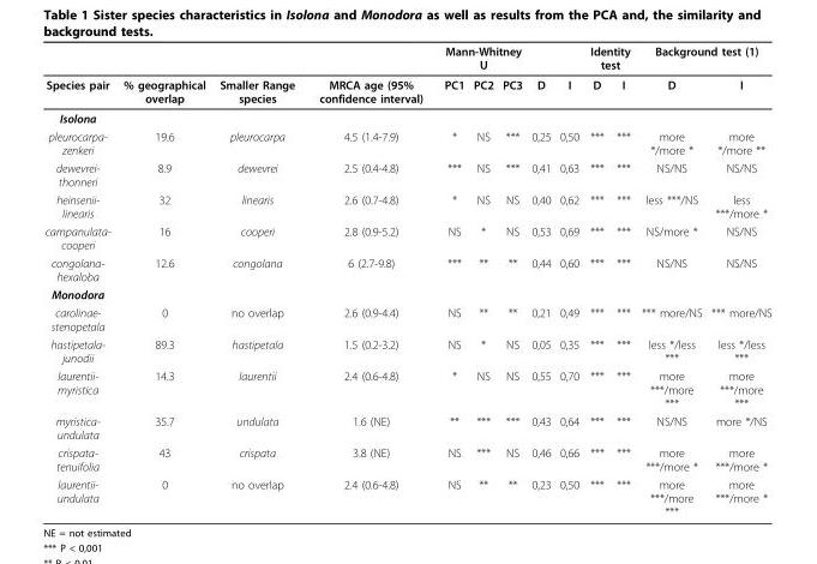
<table><thead><tr><td rowspan="2">Species pair</td><td rowspan="2">% geographical overlap</td><td rowspan="2">Smaller Range species</td><td rowspan="2">MRCA age (95% confidence interval)</td><td colspan="3">Mann-Whitney U</td><td rowspan="2">D</td><td rowspan="2">I</td><td colspan="2">Identity test</td><td colspan="2">Background test (1)</td></tr><tr><td>PC1</td><td>PC2</td><td>PC3</td><td>D</td><td>I</td><td>D</td><td>I</td></tr></thead><tbody><tr><td colspan="13">Isolona</td></tr><tr><td>pleurocarpa- zenkeri</td><td>19.6</td><td>pleurocarpa</td><td>4.5 (1.4-7.9)</td><td>*</td><td>NS</td><td>***</td><td>0,25</td><td>0,50</td><td>***</td><td>***</td><td>more */more *</td><td>more */more **</td></tr><tr><td>dewevrei- thonneri</td><td>8.9</td><td>dewevrei</td><td>2.5 (0.4-4.8)</td><td>***</td><td>NS</td><td>***</td><td>0,41</td><td>0,63</td><td>***</td><td>***</td><td>NS/NS</td><td>NS/NS</td></tr><tr><td>heinsenii- linearis</td><td>32</td><td>linearis</td><td>2.6 (0.7-4.8)</td><td>*</td><td>NS</td><td>NS</td><td>0,40</td><td>0,62</td><td>***</td><td>***</td><td>less ***/NS</td><td>less ***/more *</td></tr><tr><td>campanulata- cooperi</td><td>16</td><td>cooperi</td><td>2.8 (0.9-5.2)</td><td>NS</td><td>*</td><td>NS</td><td>0,53</td><td>0,69</td><td>***</td><td>***</td><td>NS/more *</td><td>NS/NS</td></tr><tr><td>congolana- hexaloba</td><td>12.6</td><td>congolana</td><td>6 (2.7-9.8)</td><td>***</td><td>**</td><td>**</td><td>0,44</td><td>0,60</td><td>***</td><td>***</td><td>NS/NS</td><td>NS/NS</td></tr><tr><td colspan="13">Monodora</td></tr><tr><td>carolinae- stenopetala</td><td>0</td><td>no overlap</td><td>2.6 (0.9-4.4)</td><td>NS</td><td>**</td><td>**</td><td>0,21</td><td>0,49</td><td>***</td><td>***</td><td>*** more/NS</td><td>*** more/NS</td></tr><tr><td>hastipetala- junodii</td><td>89.3</td><td>hastipetala</td><td>1.5 (0.2-3.2)</td><td>NS</td><td>*</td><td>NS</td><td>0,05</td><td>0,35</td><td>***</td><td>***</td><td>less */less ***</td><td>less */less ***</td></tr><tr><td>laurentii- myristica</td><td>14.3</td><td>laurentii</td><td>2.4 (0.6-4.8)</td><td>*</td><td>NS</td><td>NS</td><td>0,55</td><td>0,70</td><td>***</td><td>***</td><td>more ***/more ***</td><td>more ***/more ***</td></tr><tr><td>myristica- undulata</td><td>35.7</td><td>undulata</td><td>1.6 (NE)</td><td>**</td><td>***</td><td>***</td><td>0,43</td><td>0,64</td><td>***</td><td>***</td><td>NS/NS</td><td>more */NS</td></tr><tr><td>crispata- tenuifolia</td><td>43</td><td>crispata</td><td>3.8 (NE)</td><td>NS</td><td>***</td><td>NS</td><td>0,46</td><td>0,66</td><td>***</td><td>***</td><td>more ***/more *</td><td>more ***/more *</td></tr><tr><td>laurentii- undulata</td><td>0</td><td>no overlap</td><td>2.4 (0.6-4.8)</td><td>NS</td><td>**</td><td>**</td><td>0,23</td><td>0,50</td><td>***</td><td>***</td><td>more ***/more ***</td><td>more ***/more *</td></tr></tbody></table>